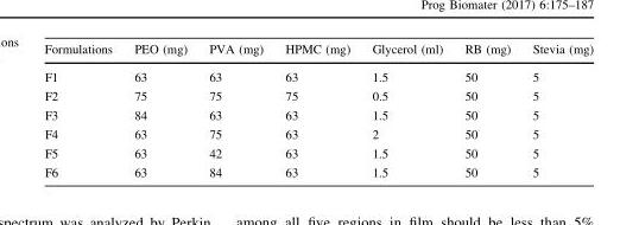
<table><thead><tr><td>Formulations</td><td>PEO (mg)</td><td>PVA (mg)</td><td>HPMC (mg)</td><td>Glycerol (ml)</td><td>RB (mg)</td><td>Stevia (mg)</td></tr></thead><tbody><tr><td>F1</td><td>63</td><td>63</td><td>63</td><td>1.5</td><td>50</td><td>5</td></tr><tr><td>F2</td><td>75</td><td>75</td><td>75</td><td>0.5</td><td>50</td><td>5</td></tr><tr><td>F3</td><td>84</td><td>63</td><td>63</td><td>1.5</td><td>50</td><td>5</td></tr><tr><td>F4</td><td>63</td><td>75</td><td>63</td><td>2</td><td>50</td><td>5</td></tr><tr><td>F5</td><td>63</td><td>42</td><td>63</td><td>1.5</td><td>50</td><td>5</td></tr><tr><td>F6</td><td>63</td><td>84</td><td>63</td><td>1.5</td><td>50</td><td>5</td></tr></tbody></table>